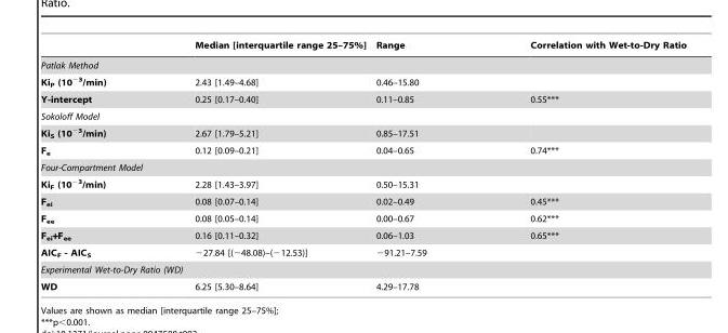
<table><thead><tr><td></td><td>Median [interquartile range 25–75%]</td><td>Range</td><td>Correlation with Wet-to-Dry Ratio</td></tr></thead><tbody><tr><td colspan="4">Patlak Method</td></tr><tr><td>Ki<sub>P</sub> (10<sup>−3</sup>/min)</td><td>2.43 [1.49–4.68]</td><td>0.46–15.80</td><td></td></tr><tr><td>Y-intercept</td><td>0.25 [0.17–0.40]</td><td>0.11–0.85</td><td>0.55***</td></tr><tr><td colspan="4">Sokoloff Model</td></tr><tr><td>Ki<sub>S</sub> (10<sup>−3</sup>/min)</td><td>2.67 [1.79–5.21]</td><td>0.85–17.51</td><td></td></tr><tr><td>F<sub>e</sub></td><td>0.12 [0.09–0.21]</td><td>0.04–0.65</td><td>0.74***</td></tr><tr><td colspan="4">Four-Compartment Model</td></tr><tr><td>Ki<sub>F</sub> (10<sup>−3</sup>/min)</td><td>2.28 [1.43–3.97]</td><td>0.50–15.31</td><td></td></tr><tr><td>F<sub>ei</sub></td><td>0.08 [0.07–0.14]</td><td>0.02–0.49</td><td>0.45***</td></tr><tr><td>F<sub>ee</sub></td><td>0.08 [0.05–0.14]</td><td>0.00–0.67</td><td>0.62***</td></tr><tr><td>F<sub>ei</sub>+F<sub>ee</sub></td><td>0.16 [0.11–0.32]</td><td>0.06–1.03</td><td>0.65***</td></tr><tr><td>AIC<sub>F</sub> - AIC<sub>S</sub></td><td>−27.84 [(−48.08)–(−12.53)]</td><td>−91.21–7.59</td><td></td></tr><tr><td colspan="4">Experimental Wet-to-Dry Ratio (WD)</td></tr><tr><td>WD</td><td>6.25 [5.30–8.64]</td><td>4.29–17.78</td><td></td></tr></tbody></table>